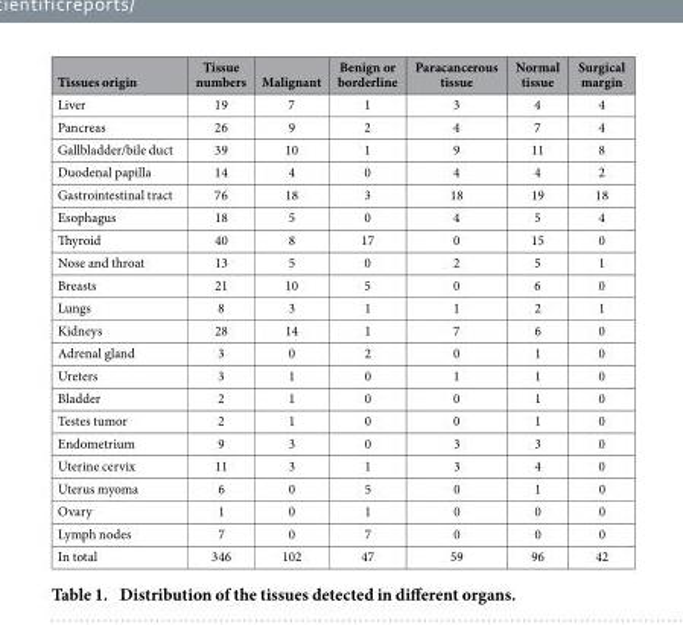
<table><thead><tr><td>Tissues origin</td><td>Tissue numbers</td><td>Malignant</td><td>Benign or borderline</td><td>Paracancerous tissue</td><td>Normal tissue</td><td>Surgical margin</td></tr></thead><tbody><tr><td>Liver</td><td>19</td><td>7</td><td>1</td><td>3</td><td>4</td><td>4</td></tr><tr><td>Pancreas</td><td>26</td><td>9</td><td>2</td><td>4</td><td>7</td><td>4</td></tr><tr><td>Gallbladder/bile duct</td><td>39</td><td>10</td><td>1</td><td>9</td><td>11</td><td>8</td></tr><tr><td>Duodenal papilla</td><td>14</td><td>4</td><td>0</td><td>4</td><td>4</td><td>2</td></tr><tr><td>Gastrointestinal tract</td><td>76</td><td>18</td><td>3</td><td>18</td><td>19</td><td>18</td></tr><tr><td>Esophagus</td><td>18</td><td>5</td><td>0</td><td>4</td><td>5</td><td>4</td></tr><tr><td>Thyroid</td><td>40</td><td>8</td><td>17</td><td>0</td><td>15</td><td>0</td></tr><tr><td>Nose and throat</td><td>13</td><td>5</td><td>0</td><td>2</td><td>5</td><td>1</td></tr><tr><td>Breasts</td><td>21</td><td>10</td><td>5</td><td>0</td><td>6</td><td>0</td></tr><tr><td>Lungs</td><td>8</td><td>3</td><td>1</td><td>1</td><td>2</td><td>1</td></tr><tr><td>Kidneys</td><td>28</td><td>14</td><td>1</td><td>7</td><td>6</td><td>0</td></tr><tr><td>Adrenal gland</td><td>3</td><td>0</td><td>2</td><td>0</td><td>1</td><td>0</td></tr><tr><td>Ureters</td><td>3</td><td>1</td><td>0</td><td>1</td><td>1</td><td>0</td></tr><tr><td>Bladder</td><td>2</td><td>1</td><td>0</td><td>0</td><td>1</td><td>0</td></tr><tr><td>Testes tumor</td><td>2</td><td>1</td><td>0</td><td>0</td><td>1</td><td>0</td></tr><tr><td>Endometrium</td><td>9</td><td>3</td><td>0</td><td>3</td><td>3</td><td>0</td></tr><tr><td>Uterine cervix</td><td>11</td><td>3</td><td>1</td><td>3</td><td>4</td><td>0</td></tr><tr><td>Uterus myoma</td><td>6</td><td>0</td><td>5</td><td>0</td><td>1</td><td>0</td></tr><tr><td>Ovary</td><td>1</td><td>0</td><td>1</td><td>0</td><td>0</td><td>0</td></tr><tr><td>Lymph nodes</td><td>7</td><td>0</td><td>7</td><td>0</td><td>0</td><td>0</td></tr><tr><td>In total</td><td>346</td><td>102</td><td>47</td><td>59</td><td>96</td><td>42</td></tr></tbody></table>